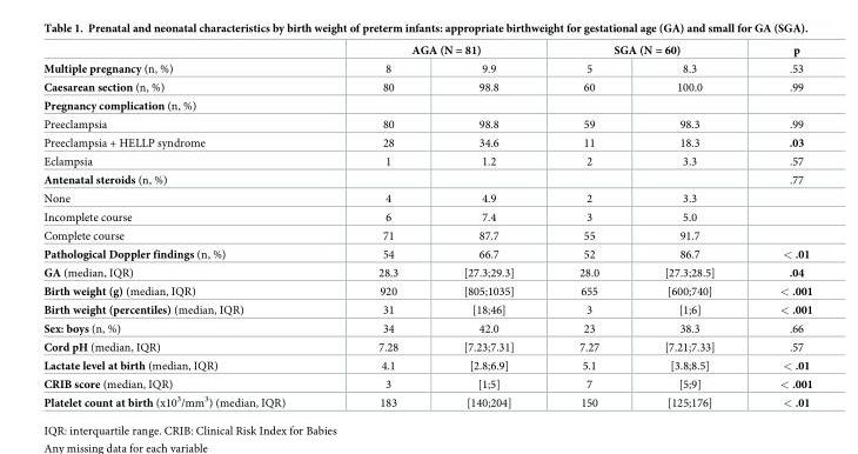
<table><thead><tr><td rowspan="2">Multiple pregnancy (n, %)</td><td colspan="2">AGA (N = 81)</td><td colspan="2">SGA (N = 60)</td><td rowspan="2">p .53</td></tr><tr><td>8</td><td>9.9</td><td>5</td><td>8.3</td></tr></thead><tbody><tr><td>Caesarean section (n, %)</td><td>80</td><td>98.8</td><td>60</td><td>100.0</td><td>.99</td></tr><tr><td colspan="6">Pregnancy complication (n, %)</td></tr><tr><td>Preeclampsia</td><td>80</td><td>98.8</td><td>59</td><td>98.3</td><td>.99</td></tr><tr><td>Preeclampsia + HELLP syndrome</td><td>28</td><td>34.6</td><td>11</td><td>18.3</td><td>.03</td></tr><tr><td>Eclampsia</td><td>1</td><td>1.2</td><td>2</td><td>3.3</td><td>.57</td></tr><tr><td>Antenatal steroids (n, %)</td><td></td><td></td><td></td><td></td><td>.77</td></tr><tr><td>None</td><td>4</td><td>4.9</td><td>2</td><td>3.3</td><td></td></tr><tr><td>Incomplete course</td><td>6</td><td>7.4</td><td>3</td><td>5.0</td><td></td></tr><tr><td>Complete course</td><td>71</td><td>87.7</td><td>55</td><td>91.7</td><td></td></tr><tr><td>Pathological Doppler findings (n, %)</td><td>54</td><td>66.7</td><td>52</td><td>86.7</td><td>&lt; .01</td></tr><tr><td>GA (median, IQR)</td><td>28.3</td><td>[27.3;29.3]</td><td>28.0</td><td>[27.3;28.5]</td><td>.04</td></tr><tr><td>Birth weight (g) (median, IQR)</td><td>920</td><td>[805;1035]</td><td>655</td><td>[600;740]</td><td>&lt; .001</td></tr><tr><td>Birth weight (percentiles) (median, IQR)</td><td>31</td><td>[18;46]</td><td>3</td><td>[1;6]</td><td>&lt; .001</td></tr><tr><td>Sex: boys (n, %)</td><td>34</td><td>42.0</td><td>23</td><td>38.3</td><td>.66</td></tr><tr><td>Cord pH (median, IQR)</td><td>7.28</td><td>[7.23;7.31]</td><td>7.27</td><td>[7.21;7.33]</td><td>.57</td></tr><tr><td>Lactate level at birth (median, IQR)</td><td>4.1</td><td>[2.8;6.9]</td><td>5.1</td><td>[3.8;8.5]</td><td>&lt; .01</td></tr><tr><td>CRIB score (median, IQR)</td><td>3</td><td>[1;5]</td><td>7</td><td>[5;9]</td><td>&lt; .001</td></tr><tr><td>Platelet count at birth (x10<sup>3</sup>/mm<sup>3</sup>) (median, IQR)</td><td>183</td><td>[140;204]</td><td>150</td><td>[125;176]</td><td>&lt; .01</td></tr></tbody></table>